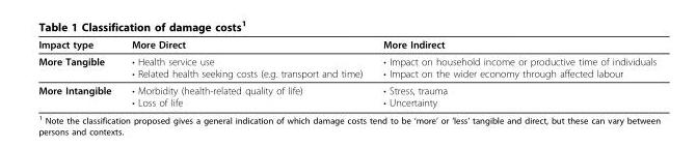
<table><thead><tr><td>Impact type</td><td>More Direct</td><td>More Indirect</td></tr></thead><tbody><tr><td>More Tangible</td><td>• Health service use • Related health seeking costs (e.g. transport and time)</td><td>• Impact on household income or productive time of individuals • Impact on the wider economy through affected labour</td></tr><tr><td>More Intangible</td><td>• Morbidity (health-related quality of life) • Loss of life</td><td>• Stress, trauma • Uncertainty</td></tr></tbody></table>